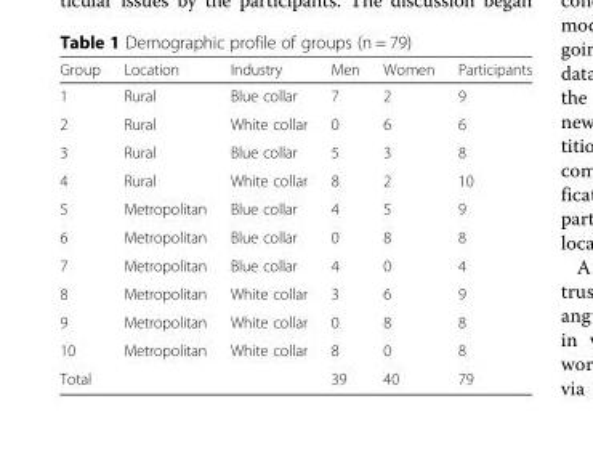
<table><thead><tr><td>Group</td><td>Location</td><td>Industry</td><td>Men</td><td>Women</td><td>Participants</td></tr></thead><tbody><tr><td>1</td><td>Rural</td><td>Blue collar</td><td>7</td><td>2</td><td>9</td></tr><tr><td>2</td><td>Rural</td><td>White collar</td><td>0</td><td>6</td><td>6</td></tr><tr><td>3</td><td>Rural</td><td>Blue collar</td><td>5</td><td>3</td><td>8</td></tr><tr><td>4</td><td>Rural</td><td>White collar</td><td>8</td><td>2</td><td>10</td></tr><tr><td>5</td><td>Metropolitan</td><td>Blue collar</td><td>4</td><td>5</td><td>9</td></tr><tr><td>6</td><td>Metropolitan</td><td>Blue collar</td><td>0</td><td>8</td><td>8</td></tr><tr><td>7</td><td>Metropolitan</td><td>Blue collar</td><td>4</td><td>0</td><td>4</td></tr><tr><td>8</td><td>Metropolitan</td><td>White collar</td><td>3</td><td>6</td><td>9</td></tr><tr><td>9</td><td>Metropolitan</td><td>White collar</td><td>0</td><td>8</td><td>8</td></tr><tr><td>10</td><td>Metropolitan</td><td>White collar</td><td>8</td><td>0</td><td>8</td></tr><tr><td>Total</td><td></td><td></td><td>39</td><td>40</td><td>79</td></tr></tbody></table>